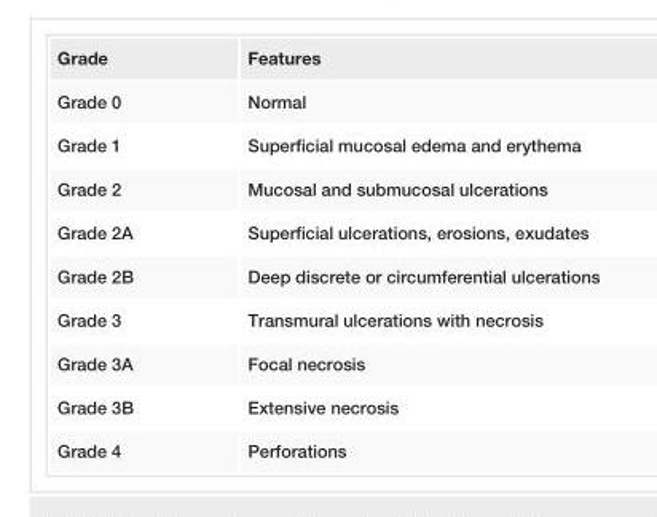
<table><tbody><tr><td>Grade</td><td>Features</td></tr><tr><td>Grade 0</td><td>Normal</td></tr><tr><td>Grade 1</td><td>Superficial mucosal edema and erythema</td></tr><tr><td>Grade 2</td><td>Mucosal and submucosal ulcerations</td></tr><tr><td>Grade 2A</td><td>Superficial ulcerations, erosions, exudates</td></tr><tr><td>Grade 2B</td><td>Deep discrete or circumferential ulcerations</td></tr><tr><td>Grade 3</td><td>Transmural ulcerations with necrosis</td></tr><tr><td>Grade 3A</td><td>Focal necrosis</td></tr><tr><td>Grade 3B</td><td>Extensive necrosis</td></tr><tr><td>Grade 4</td><td>Perforations</td></tr></tbody></table>